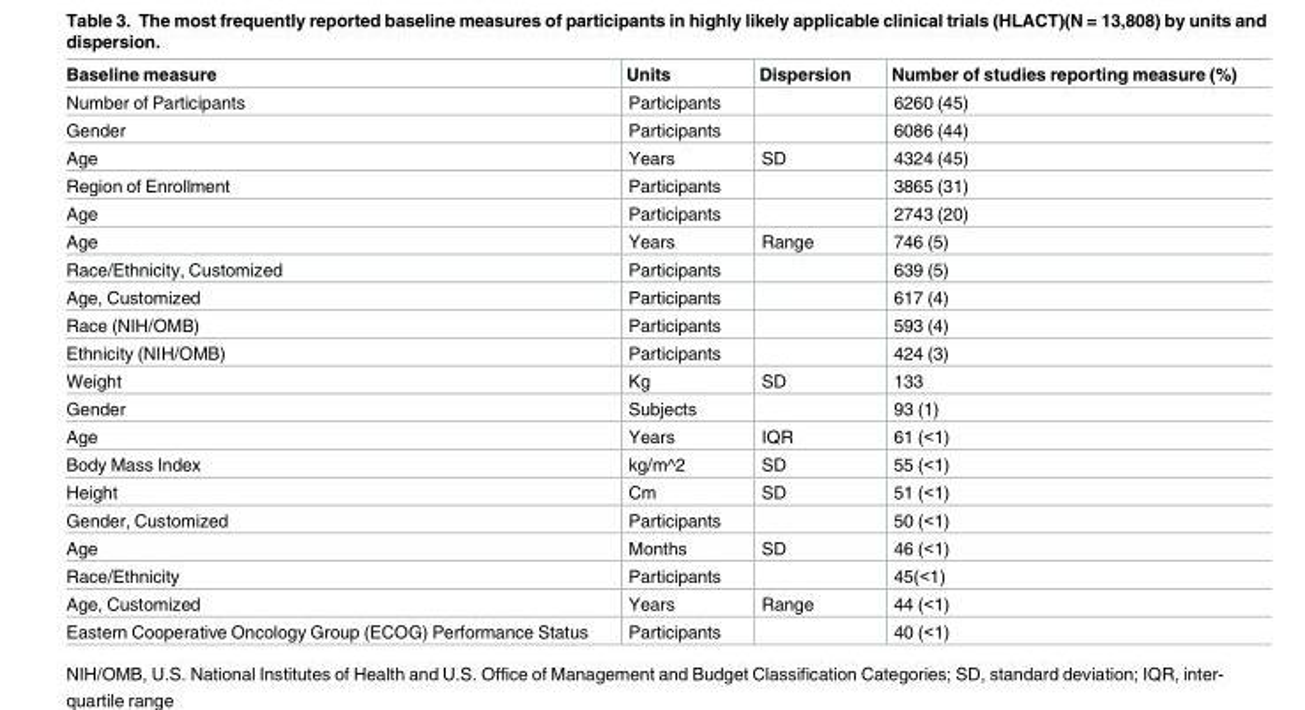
<table><thead><tr><td>Baseline measure</td><td>Units</td><td>Dispersion</td><td>Number of studies reporting measure (%)</td></tr></thead><tbody><tr><td>Number of Participants</td><td>Participants</td><td></td><td>6260 (45)</td></tr><tr><td>Gender</td><td>Participants</td><td></td><td>6086 (44)</td></tr><tr><td>Age</td><td>Years</td><td>SD</td><td>4324 (45)</td></tr><tr><td>Region of Enrollment</td><td>Participants</td><td></td><td>3865 (31)</td></tr><tr><td>Age</td><td>Participants</td><td></td><td>2743 (20)</td></tr><tr><td>Age</td><td>Years</td><td>Range</td><td>746 (5)</td></tr><tr><td>Race/Ethnicity, Customized</td><td>Participants</td><td></td><td>639 (5)</td></tr><tr><td>Age, Customized</td><td>Participants</td><td></td><td>617 (4)</td></tr><tr><td>Race (NIH/OMB)</td><td>Participants</td><td></td><td>593 (4)</td></tr><tr><td>Ethnicity (NIH/OMB)</td><td>Participants</td><td></td><td>424 (3)</td></tr><tr><td>Weight</td><td>Kg</td><td>SD</td><td>133</td></tr><tr><td>Gender</td><td>Subjects</td><td></td><td>93 (1)</td></tr><tr><td>Age</td><td>Years</td><td>IQR</td><td>61 (&lt;1)</td></tr><tr><td>Body Mass Index</td><td>kg/m^2</td><td>SD</td><td>55 (&lt;1)</td></tr><tr><td>Height</td><td>Cm</td><td>SD</td><td>51 (&lt;1)</td></tr><tr><td>Gender, Customized</td><td>Participants</td><td></td><td>50 (&lt;1)</td></tr><tr><td>Age</td><td>Months</td><td>SD</td><td>46 (&lt;1)</td></tr><tr><td>Race/Ethnicity</td><td>Participants</td><td></td><td>45(&lt;1)</td></tr><tr><td>Age, Customized</td><td>Years</td><td>Range</td><td>44 (&lt;1)</td></tr><tr><td>Eastern Cooperative Oncology Group (ECOG) Performance Status</td><td>Participants</td><td></td><td>40 (&lt;1)</td></tr></tbody></table>